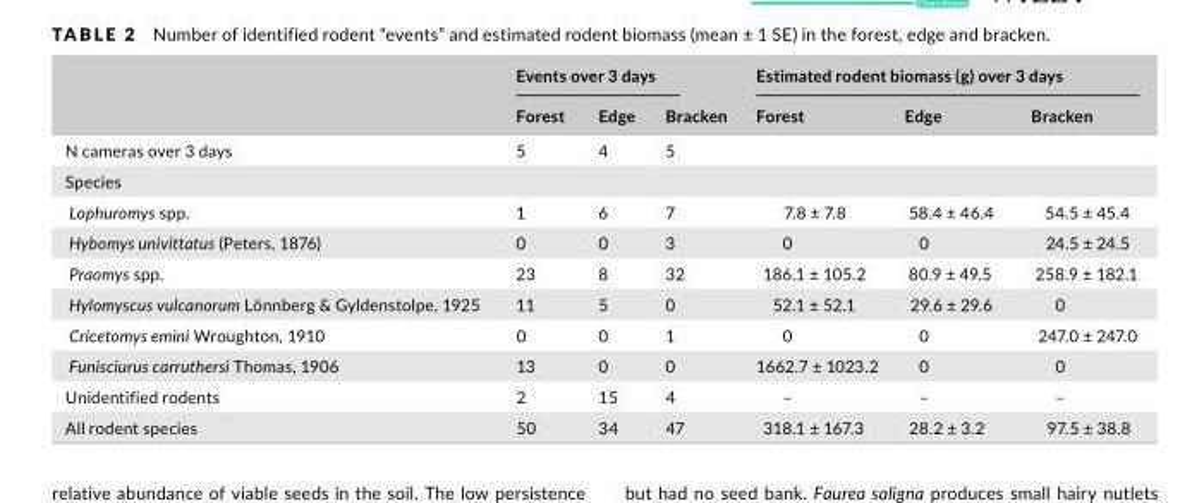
<table><thead><tr><td rowspan="2"></td><td colspan="3">Events over 3 days</td><td colspan="3">Estimated rodent biomass (g) over 3 days</td></tr><tr><td>Forest</td><td>Edge</td><td>Bracken</td><td>Forest</td><td>Edge</td><td>Bracken</td></tr></thead><tbody><tr><td>N cameras over 3 days</td><td>5</td><td>4</td><td>5</td><td></td><td></td><td></td></tr><tr><td colspan="7">Species</td></tr><tr><td>Lophuromys spp.</td><td>1</td><td>6</td><td>7</td><td>7.8 ± 7.8</td><td>58.4 ± 46.4</td><td>54.5 ± 45.4</td></tr><tr><td>Hybomys univittatus (Peters, 1876)</td><td>0</td><td>0</td><td>3</td><td>0</td><td>0</td><td>24.5 ± 24.5</td></tr><tr><td>Praomys spp.</td><td>23</td><td>8</td><td>32</td><td>186.1 ± 105.2</td><td>80.9 ± 49.5</td><td>258.9 ± 182.1</td></tr><tr><td>Hylomyscus vulcanorum Lönnberg &amp; Gyldenstolpe, 1925</td><td>11</td><td>5</td><td>0</td><td>52.1 ± 52.1</td><td>29.6 ± 29.6</td><td>0</td></tr><tr><td>Cricetomys emini Wroughton, 1910</td><td>0</td><td>0</td><td>1</td><td>0</td><td>0</td><td>247.0 ± 247.0</td></tr><tr><td>Funisciurus carruthersi Thomas, 1906</td><td>13</td><td>0</td><td>0</td><td>1662.7 ± 1023.2</td><td>0</td><td>0</td></tr><tr><td>Unidentified rodents</td><td>2</td><td>15</td><td>4</td><td>–</td><td>–</td><td>–</td></tr><tr><td>All rodent species</td><td>50</td><td>34</td><td>47</td><td>318.1 ± 167.3</td><td>28.2 ± 3.2</td><td>97.5 ± 38.8</td></tr></tbody></table>